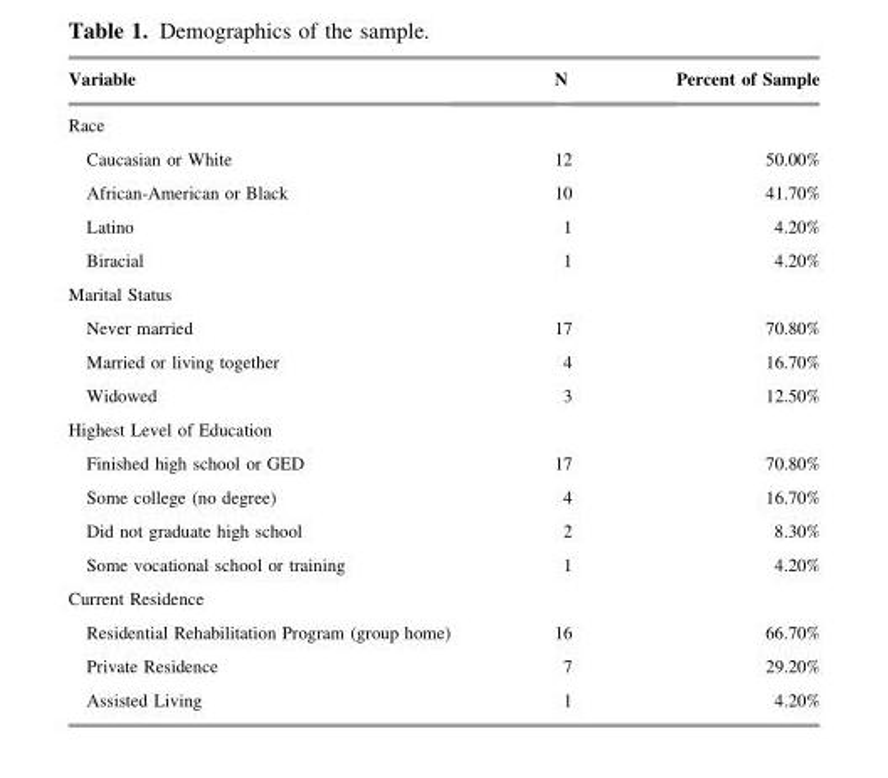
<table><thead><tr><td>Variable</td><td>N</td><td>Percent of Sample</td></tr></thead><tbody><tr><td colspan="3">Race</td></tr><tr><td>Caucasian or White</td><td>12</td><td>50.00%</td></tr><tr><td>African-American or Black</td><td>10</td><td>41.70%</td></tr><tr><td>Latino</td><td>1</td><td>4.20%</td></tr><tr><td>Biracial</td><td>1</td><td>4.20%</td></tr><tr><td colspan="3">Marital Status</td></tr><tr><td>Never married</td><td>17</td><td>70.80%</td></tr><tr><td>Married or living together</td><td>4</td><td>16.70%</td></tr><tr><td>Widowed</td><td>3</td><td>12.50%</td></tr><tr><td colspan="3">Highest Level of Education</td></tr><tr><td>Finished high school or GED</td><td>17</td><td>70.80%</td></tr><tr><td>Some college (no degree)</td><td>4</td><td>16.70%</td></tr><tr><td>Did not graduate high school</td><td>2</td><td>8.30%</td></tr><tr><td>Some vocational school or training</td><td>1</td><td>4.20%</td></tr><tr><td colspan="3">Current Residence</td></tr><tr><td>Residential Rehabilitation Program (group home)</td><td>16</td><td>66.70%</td></tr><tr><td>Private Residence</td><td>7</td><td>29.20%</td></tr><tr><td>Assisted Living</td><td>1</td><td>4.20%</td></tr></tbody></table>